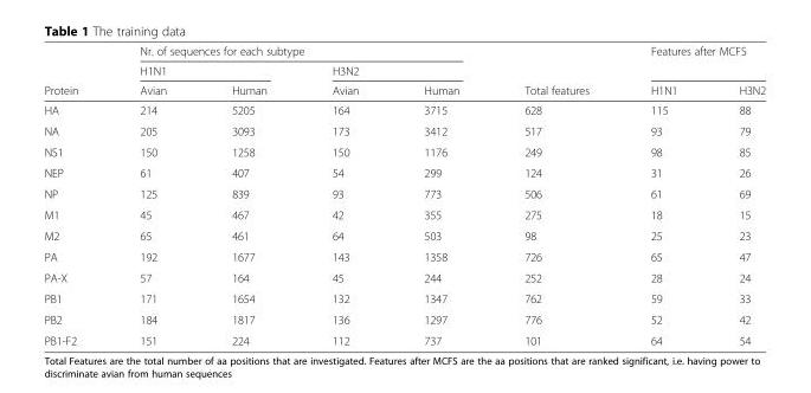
<table><thead><tr><td rowspan="3">Protein</td><td colspan="4">Nr. of sequences for each subtype</td><td rowspan="3">Total features</td><td rowspan="2" colspan="2">Features after MCFS</td></tr><tr><td colspan="2">H1N1</td><td colspan="2">H3N2</td></tr><tr><td>Avian</td><td>Human</td><td>Avian</td><td>Human</td><td>H1N1</td><td>H3N2</td></tr></thead><tbody><tr><td>HA</td><td>214</td><td>5205</td><td>164</td><td>3715</td><td>628</td><td>115</td><td>88</td></tr><tr><td>NA</td><td>205</td><td>3093</td><td>173</td><td>3412</td><td>517</td><td>93</td><td>79</td></tr><tr><td>NS1</td><td>150</td><td>1258</td><td>150</td><td>1176</td><td>249</td><td>98</td><td>85</td></tr><tr><td>NEP</td><td>61</td><td>407</td><td>54</td><td>299</td><td>124</td><td>31</td><td>26</td></tr><tr><td>NP</td><td>125</td><td>839</td><td>93</td><td>773</td><td>506</td><td>61</td><td>69</td></tr><tr><td>M1</td><td>45</td><td>467</td><td>42</td><td>355</td><td>275</td><td>18</td><td>15</td></tr><tr><td>M2</td><td>65</td><td>461</td><td>64</td><td>503</td><td>98</td><td>25</td><td>23</td></tr><tr><td>PA</td><td>192</td><td>1677</td><td>143</td><td>1358</td><td>726</td><td>65</td><td>47</td></tr><tr><td>PA-X</td><td>57</td><td>164</td><td>45</td><td>244</td><td>252</td><td>28</td><td>24</td></tr><tr><td>PB1</td><td>171</td><td>1654</td><td>132</td><td>1347</td><td>762</td><td>59</td><td>33</td></tr><tr><td>PB2</td><td>184</td><td>1817</td><td>136</td><td>1297</td><td>776</td><td>52</td><td>42</td></tr><tr><td>PB1-F2</td><td>151</td><td>224</td><td>112</td><td>737</td><td>101</td><td>64</td><td>54</td></tr></tbody></table>